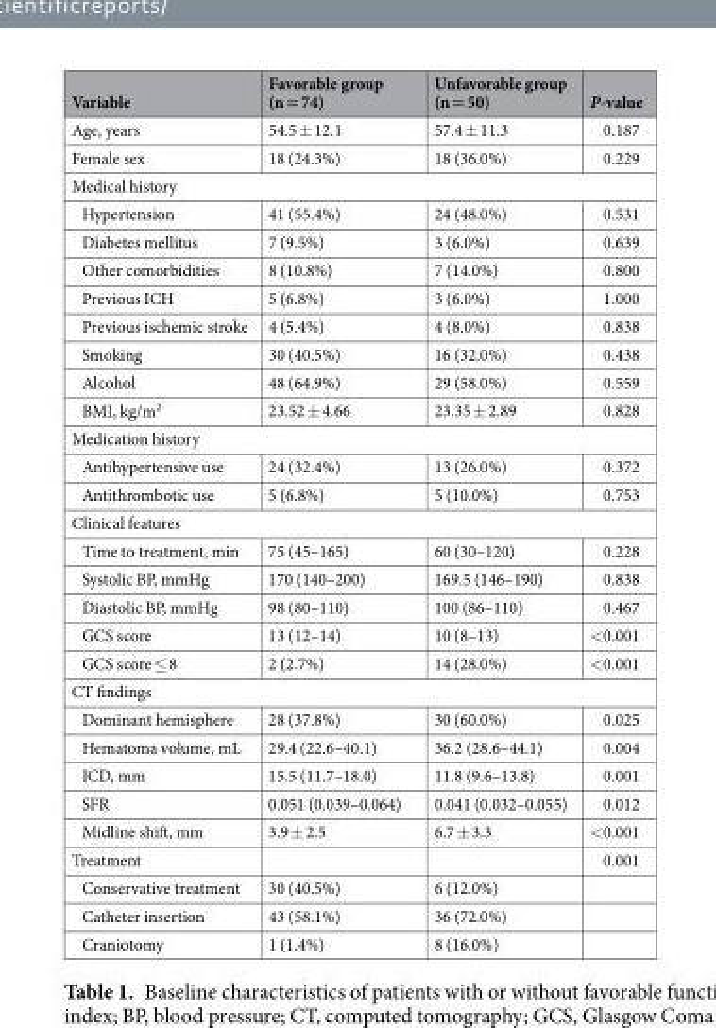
<table><thead><tr><td>Variable</td><td>Favorable group (n = 74)</td><td>Unfavorable group (n = 50)</td><td>P-value</td></tr></thead><tbody><tr><td>Age, years</td><td>54.5 ± 12.1</td><td>57.4 ± 11.3</td><td>0.187</td></tr><tr><td>Female sex</td><td>18 (24.3%)</td><td>18 (36.0%)</td><td>0.229</td></tr><tr><td colspan="4">Medical history</td></tr><tr><td>Hypertension</td><td>41 (55.4%)</td><td>24 (48.0%)</td><td>0.531</td></tr><tr><td>Diabetes mellitus</td><td>7 (9.5%)</td><td>3 (6.0%)</td><td>0.639</td></tr><tr><td>Other comorbidities</td><td>8 (10.8%)</td><td>7 (14.0%)</td><td>0.800</td></tr><tr><td>Previous ICH</td><td>5 (6.8%)</td><td>3 (6.0%)</td><td>1.000</td></tr><tr><td>Previous ischemic stroke</td><td>4 (5.4%)</td><td>4 (8.0%)</td><td>0.838</td></tr><tr><td>Smoking</td><td>30 (40.5%)</td><td>16 (32.0%)</td><td>0.438</td></tr><tr><td>Alcohol</td><td>48 (64.9%)</td><td>29 (58.0%)</td><td>0.559</td></tr><tr><td>BMI, kg/m<sup>2</sup></td><td>23.52 ± 4.66</td><td>23.35 ± 2.89</td><td>0.828</td></tr><tr><td colspan="4">Medication history</td></tr><tr><td>Antihypertensive use</td><td>24 (32.4%)</td><td>13 (26.0%)</td><td>0.372</td></tr><tr><td>Antithrombotic use</td><td>5 (6.8%)</td><td>5 (10.0%)</td><td>0.753</td></tr><tr><td colspan="4">Clinical features</td></tr><tr><td>Time to treatment, min</td><td>75 (45–165)</td><td>60 (30–120)</td><td>0.228</td></tr><tr><td>Systolic BP, mmHg</td><td>170 (140–200)</td><td>169.5 (146–190)</td><td>0.838</td></tr><tr><td>Diastolic BP, mmHg</td><td>98 (80–110)</td><td>100 (86–110)</td><td>0.467</td></tr><tr><td>GCS score</td><td>13 (12–14)</td><td>10 (8–13)</td><td>&lt;0.001</td></tr><tr><td>GCS score ≤ 8</td><td>2 (2.7%)</td><td>14 (28.0%)</td><td>&lt;0.001</td></tr><tr><td colspan="4">CT findings</td></tr><tr><td>Dominant hemisphere</td><td>28 (37.8%)</td><td>30 (60.0%)</td><td>0.025</td></tr><tr><td>Hematoma volume, mL</td><td>29.4 (22.6–40.1)</td><td>36.2 (28.6–44.1)</td><td>0.004</td></tr><tr><td>ICD, mm</td><td>15.5 (11.7–18.0)</td><td>11.8 (9.6–13.8)</td><td>0.001</td></tr><tr><td>SFR</td><td>0.051 (0.039–0.064)</td><td>0.041 (0.032–0.055)</td><td>0.012</td></tr><tr><td>Midline shift, mm</td><td>3.9 ± 2.5</td><td>6.7 ± 3.3</td><td>&lt;0.001</td></tr><tr><td>Treatment</td><td></td><td></td><td>0.001</td></tr><tr><td>Conservative treatment</td><td>30 (40.5%)</td><td>6 (12.0%)</td><td></td></tr><tr><td>Catheter insertion</td><td>43 (58.1%)</td><td>36 (72.0%)</td><td></td></tr><tr><td>Craniotomy</td><td>1 (1.4%)</td><td>8 (16.0%)</td><td></td></tr></tbody></table>